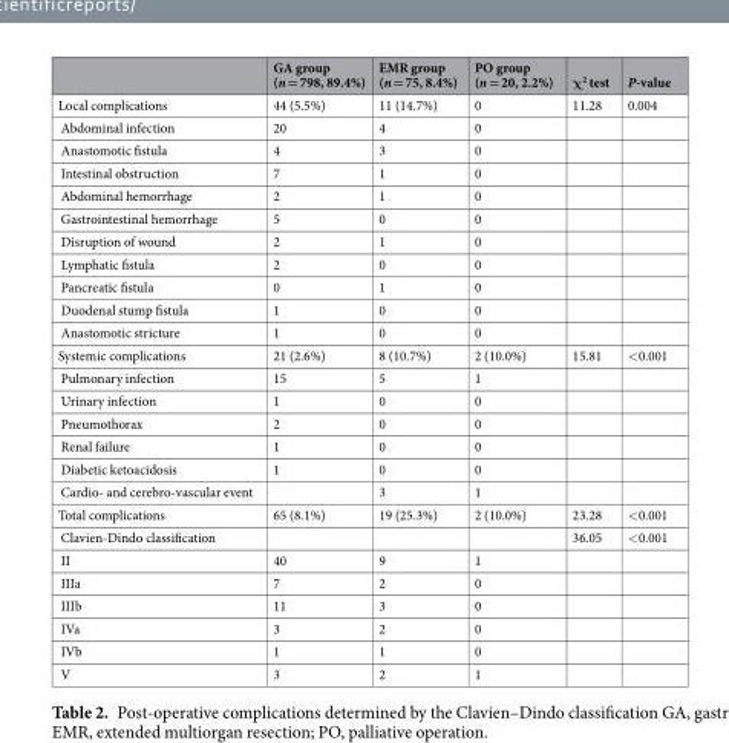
<table><thead><tr><td></td><td>GA group (n = 798, 89.4%)</td><td>EMR group (n = 75, 8.4%)</td><td>PO group (n = 20, 2.2%)</td><td>χ<sup>2</sup> test</td><td>P-value</td></tr></thead><tbody><tr><td>Local complications</td><td>44 (5.5%)</td><td>11 (14.7%)</td><td>0</td><td>11.28</td><td>0.004</td></tr><tr><td>Abdominal infection</td><td>20</td><td>4</td><td>0</td><td></td><td></td></tr><tr><td>Anastomotic fistula</td><td>4</td><td>3</td><td>0</td><td></td><td></td></tr><tr><td>Intestinal obstruction</td><td>7</td><td>1</td><td>0</td><td></td><td></td></tr><tr><td>Abdominal hemorrhage</td><td>2</td><td>1</td><td>0</td><td></td><td></td></tr><tr><td>Gastrointestinal hemorrhage</td><td>5</td><td>0</td><td>0</td><td></td><td></td></tr><tr><td>Disruption of wound</td><td>2</td><td>1</td><td>0</td><td></td><td></td></tr><tr><td>Lymphatic fistula</td><td>2</td><td>0</td><td>0</td><td></td><td></td></tr><tr><td>Pancreatic fistula</td><td>0</td><td>1</td><td>0</td><td></td><td></td></tr><tr><td>Duodenal stump fistula</td><td>1</td><td>0</td><td>0</td><td></td><td></td></tr><tr><td>Anastomotic stricture</td><td>1</td><td>0</td><td>0</td><td></td><td></td></tr><tr><td>Systemic complications</td><td>21 (2.6%)</td><td>8 (10.7%)</td><td>2 (10.0%)</td><td>15.81</td><td>&lt;0.001</td></tr><tr><td>Pulmonary infection</td><td>15</td><td>5</td><td>1</td><td></td><td></td></tr><tr><td>Urinary infection</td><td>1</td><td>0</td><td>0</td><td></td><td></td></tr><tr><td>Pneumothorax</td><td>2</td><td>0</td><td>0</td><td></td><td></td></tr><tr><td>Renal failure</td><td>1</td><td>0</td><td>0</td><td></td><td></td></tr><tr><td>Diabetic ketoacidosis</td><td>1</td><td>0</td><td>0</td><td></td><td></td></tr><tr><td>Cardio- and cerebro-vascular event</td><td></td><td>3</td><td>1</td><td></td><td></td></tr><tr><td>Total complications</td><td>65 (8.1%)</td><td>19 (25.3%)</td><td>2 (10.0%)</td><td>23.28</td><td>&lt;0.001</td></tr><tr><td>Clavien-Dindo classification</td><td></td><td></td><td></td><td>36.05</td><td>&lt;0.001</td></tr><tr><td>II</td><td>40</td><td>9</td><td>1</td><td></td><td></td></tr><tr><td>IIIa</td><td>7</td><td>2</td><td>0</td><td></td><td></td></tr><tr><td>IIIb</td><td>11</td><td>3</td><td>0</td><td></td><td></td></tr><tr><td>IVa</td><td>3</td><td>2</td><td>0</td><td></td><td></td></tr><tr><td>IVb</td><td>1</td><td>1</td><td>0</td><td></td><td></td></tr><tr><td>V</td><td>3</td><td>2</td><td>1</td><td></td><td></td></tr></tbody></table>